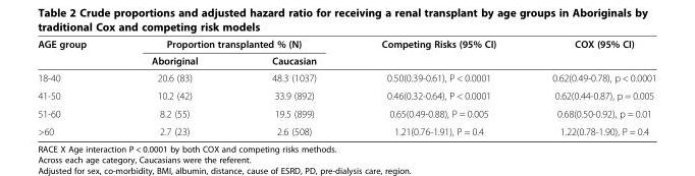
<table><thead><tr><td rowspan="2">AGE group</td><td colspan="2">Proportion transplanted % (N)</td><td rowspan="2">Competing Risks (95% CI)</td><td rowspan="2">COX (95% CI)</td></tr><tr><td>Aboriginal</td><td>Caucasian</td></tr></thead><tbody><tr><td>18-40</td><td>20.6 (83)</td><td>48.3 (1037)</td><td>0.50(0.39-0.61), P &lt; 0.0001</td><td>0.62(0.49-0.78), p &lt; 0.0001</td></tr><tr><td>41-50</td><td>10.2 (42)</td><td>33.9 (892)</td><td>0.46(0.32-0.64), P &lt; 0.0001</td><td>0.62(0.44-0.87), p = 0.005</td></tr><tr><td>51-60</td><td>8.2 (55)</td><td>19.5 (899)</td><td>0.65(0.49-0.88), P = 0.005</td><td>0.68(0.50-0.92), p = 0.01</td></tr><tr><td>&gt;60</td><td>2.7 (23)</td><td>2.6 (508)</td><td>1.21(0.76-1.91), P = 0.4</td><td>1.22(0.78-1.90), P = 0.4</td></tr></tbody></table>